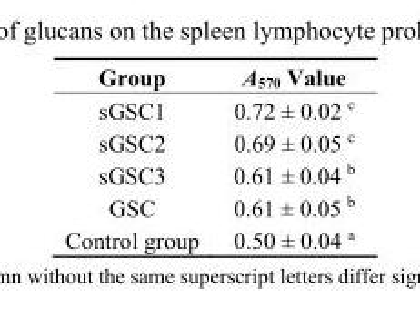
<table><thead><tr><td>Group</td><td>A<sub>570</sub> Value</td></tr></thead><tbody><tr><td>sGSC1</td><td>0.72 ± 0.02 <sup>c</sup></td></tr><tr><td>sGSC2</td><td>0.69 ± 0.05 <sup>c</sup></td></tr><tr><td>sGSC3</td><td>0.61 ± 0.04 <sup>b</sup></td></tr><tr><td>GSC</td><td>0.61 ± 0.05 <sup>b</sup></td></tr><tr><td>Control group</td><td>0.50 ± 0.04 <sup>a</sup></td></tr></tbody></table>